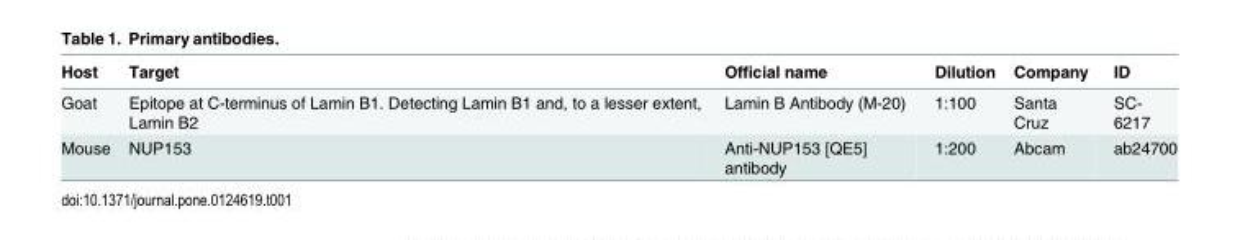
<table><thead><tr><td>Host</td><td>Target</td><td>Official name</td><td>Dilution</td><td>Company</td><td>ID</td></tr></thead><tbody><tr><td>Goat</td><td>Epitope at C-terminus of Lamin B1. Detecting Lamin B1 and, to a lesser extent, Lamin B2</td><td>Lamin B Antibody (M-20)</td><td>1:100</td><td>Santa Cruz</td><td>SC- 6217</td></tr><tr><td>Mouse</td><td>NUP153</td><td>Anti-NUP153 [QE5] antibody</td><td>1:200</td><td>Abcam</td><td>ab24700</td></tr></tbody></table>